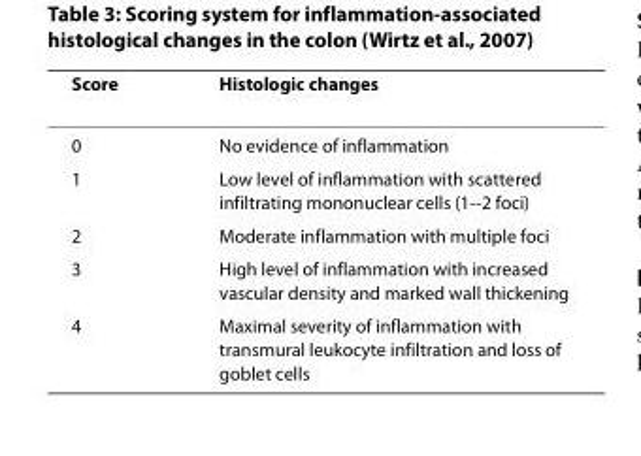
<table><thead><tr><td>Score</td><td>Histologic changes</td></tr></thead><tbody><tr><td>0</td><td>No evidence of inflammation</td></tr><tr><td>1</td><td>Low level of inflammation with scattered infiltrating mononuclear cells (1--2 foci)</td></tr><tr><td>2</td><td>Moderate inflammation with multiple foci</td></tr><tr><td>3</td><td>High level of inflammation with increased vascular density and marked wall thickening</td></tr><tr><td>4</td><td>Maximal severity of inflammation with transmural leukocyte infiltration and loss of goblet cells</td></tr></tbody></table>